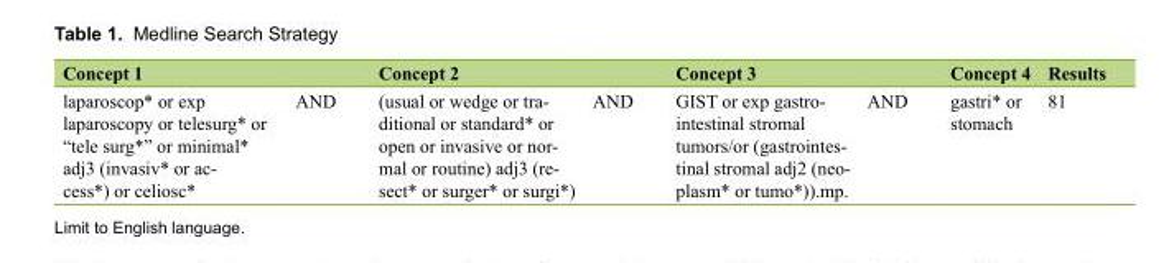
<table><thead><tr><td>Concept 1</td><td></td><td>Concept 2</td><td></td><td>Concept 3</td><td></td><td>Concept 4</td><td>Results</td></tr></thead><tbody><tr><td>laparoscop* or exp laparoscopy or telesurg* or “tele surg*” or minimal* adj3 (invasiv* or ac- cess*) or celiosc*</td><td>AND</td><td>(usual or wedge or tra- ditional or standard* or open or invasive or nor- mal or routine) adj3 (re- sect* or surger* or surgi*)</td><td>AND</td><td>GIST or exp gastro- intestinal stromal tumors/or (gastrointes- tinal stromal adj2 (neo- plasm* or tumo*)).mp.</td><td>AND</td><td>gastri* or stomach</td><td>81</td></tr></tbody></table>